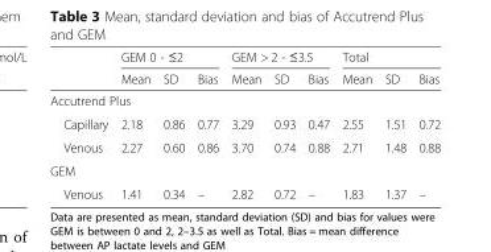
<table><thead><tr><td rowspan="2"></td><td colspan="3">GEM 0 - ≤2</td><td colspan="3">GEM &gt; 2 - ≤3.5</td><td colspan="3">Total</td></tr><tr><td>Mean</td><td>SD</td><td>Bias</td><td>Mean</td><td>SD</td><td>Bias</td><td>Mean</td><td>SD</td><td>Bias</td></tr></thead><tbody><tr><td colspan="10">Accutrend Plus</td></tr><tr><td>Capillary</td><td>2.18</td><td>0.86</td><td>0.77</td><td>3.29</td><td>0.93</td><td>0.47</td><td>2.55</td><td>1.51</td><td>0.72</td></tr><tr><td>Venous</td><td>2.27</td><td>0.60</td><td>0.86</td><td>3.70</td><td>0.74</td><td>0.88</td><td>2.71</td><td>1.48</td><td>0.88</td></tr><tr><td colspan="10">GEM</td></tr><tr><td>Venous</td><td>1.41</td><td>0.34</td><td>–</td><td>2.82</td><td>0.72</td><td>–</td><td>1.83</td><td>1.37</td><td>–</td></tr></tbody></table>